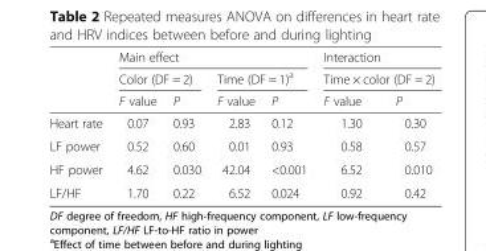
<table><thead><tr><td rowspan="3"></td><td colspan="4">Main effect</td><td rowspan="2" colspan="2">Interaction Time × color (DF = 2)</td></tr><tr><td colspan="2">Color (DF = 2)</td><td colspan="2">Time (DF = 1)<sup>a</sup></td></tr><tr><td>F value</td><td>P</td><td>F value</td><td>P</td><td>F value</td><td>P</td></tr></thead><tbody><tr><td>Heart rate</td><td>0.07</td><td>0.93</td><td>2.83</td><td>0.12</td><td>1.30</td><td>0.30</td></tr><tr><td>LF power</td><td>0.52</td><td>0.60</td><td>0.01</td><td>0.93</td><td>0.58</td><td>0.57</td></tr><tr><td>HF power</td><td>4.62</td><td>0.030</td><td>42.04</td><td>&lt;0.001</td><td>6.52</td><td>0.010</td></tr><tr><td>LF/HF</td><td>1.70</td><td>0.22</td><td>6.52</td><td>0.024</td><td>0.92</td><td>0.42</td></tr></tbody></table>